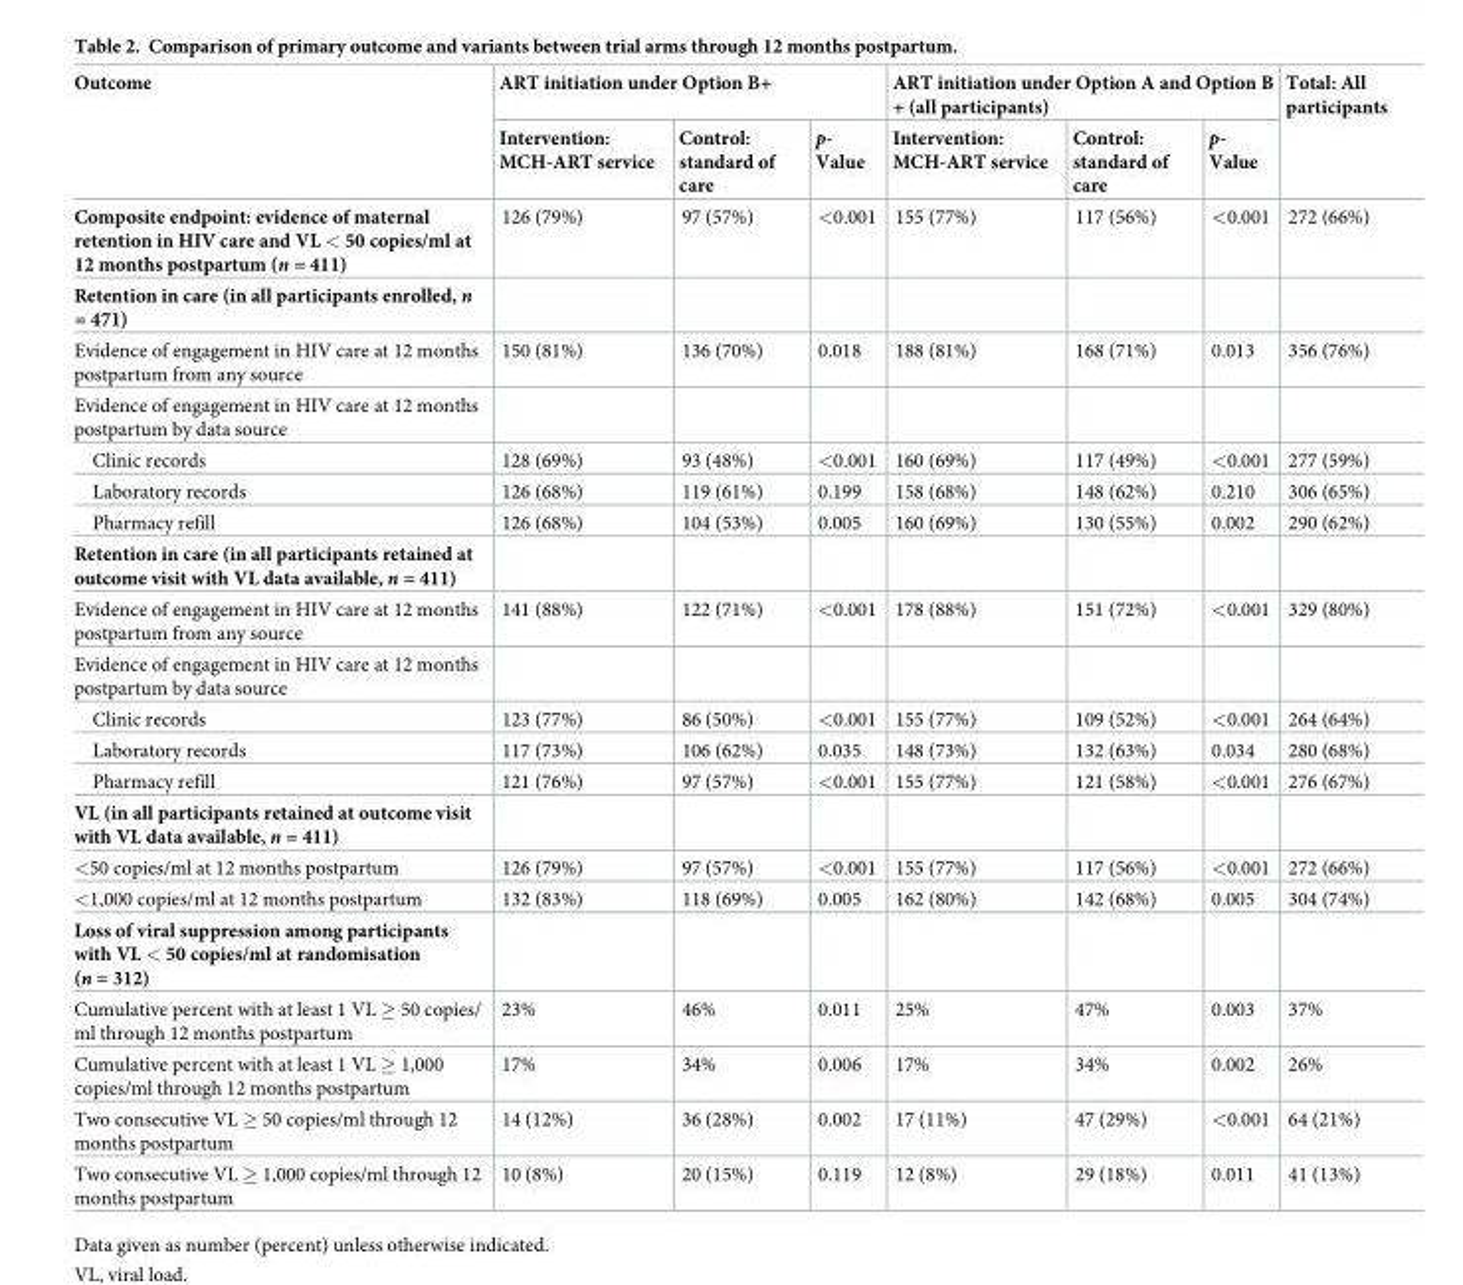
<table><thead><tr><td rowspan="2">Outcome</td><td colspan="3">ART initiation under Option B+</td><td colspan="3">ART initiation under Option A and Option B + (all participants)</td><td rowspan="2">Total: All participants</td></tr><tr><td>Intervention: MCH-ART service</td><td>Control: standard of care</td><td>p- Value</td><td>Intervention: MCH-ART service</td><td>Control: standard of care</td><td>p- Value</td></tr></thead><tbody><tr><td>Composite endpoint: evidence of maternal retention in HIV care and VL &lt; 50 copies/ml at 12 months postpartum (n = 411)</td><td>126 (79%)</td><td>97 (57%)</td><td>&lt;0.001</td><td>155 (77%)</td><td>117 (56%)</td><td>&lt;0.001</td><td>272 (66%)</td></tr><tr><td colspan="8">Retention in care (in all participants enrolled, n = 471)</td></tr><tr><td>Evidence of engagement in HIV care at 12 months postpartum from any source</td><td>150 (81%)</td><td>136 (70%)</td><td>0.018</td><td>188 (81%)</td><td>168 (71%)</td><td>0.013</td><td>356 (76%)</td></tr><tr><td colspan="8">Evidence of engagement in HIV care at 12 months postpartum by data source</td></tr><tr><td>Clinic records</td><td>128 (69%)</td><td>93 (48%)</td><td>&lt;0.001</td><td>160 (69%)</td><td>117 (49%)</td><td>&lt;0.001</td><td>277 (59%)</td></tr><tr><td>Laboratory records</td><td>126 (68%)</td><td>119 (61%)</td><td>0.199</td><td>158 (68%)</td><td>148 (62%)</td><td>0.210</td><td>306 (65%)</td></tr><tr><td>Pharmacy refill</td><td>126 (68%)</td><td>104 (53%)</td><td>0.005</td><td>160 (69%)</td><td>130 (55%)</td><td>0.002</td><td>290 (62%)</td></tr><tr><td colspan="8">Retention in care (in all participants retained at outcome visit with VL data available, n = 411)</td></tr><tr><td>Evidence of engagement in HIV care at 12 months postpartum from any source</td><td>141 (88%)</td><td>122 (71%)</td><td>&lt;0.001</td><td>178 (88%)</td><td>151 (72%)</td><td>&lt;0.001</td><td>329 (80%)</td></tr><tr><td colspan="8">Evidence of engagement in HIV care at 12 months postpartum by data source</td></tr><tr><td>Clinic records</td><td>123 (77%)</td><td>86 (50%)</td><td>&lt;0.001</td><td>155 (77%)</td><td>109 (52%)</td><td>&lt;0.001</td><td>264 (64%)</td></tr><tr><td>Laboratory records</td><td>117 (73%)</td><td>106 (62%)</td><td>0.035</td><td>148 (73%)</td><td>132 (63%)</td><td>0.034</td><td>280 (68%)</td></tr><tr><td>Pharmacy refill</td><td>121 (76%)</td><td>97 (57%)</td><td>&lt;0.001</td><td>155 (77%)</td><td>121 (58%)</td><td>&lt;0.001</td><td>276 (67%)</td></tr><tr><td colspan="8">VL (in all participants retained at outcome visit with VL data available, n = 411)</td></tr><tr><td>&lt;50 copies/ml at 12 months postpartum</td><td>126 (79%)</td><td>97 (57%)</td><td>&lt;0.001</td><td>155 (77%)</td><td>117 (56%)</td><td>&lt;0.001</td><td>272 (66%)</td></tr><tr><td>&lt;1,000 copies/ml at 12 months postpartum</td><td>132 (83%)</td><td>118 (69%)</td><td>0.005</td><td>162 (80%)</td><td>142 (68%)</td><td>0.005</td><td>304 (74%)</td></tr><tr><td colspan="8">Loss of viral suppression among participants with VL &lt; 50 copies/ml at randomisation (n = 312)</td></tr><tr><td>Cumulative percent with at least 1 VL ≥ 50 copies/ ml through 12 months postpartum</td><td>23%</td><td>46%</td><td>0.011</td><td>25%</td><td>47%</td><td>0.003</td><td>37%</td></tr><tr><td>Cumulative percent with at least 1 VL ≥ 1,000 copies/ml through 12 months postpartum</td><td>17%</td><td>34%</td><td>0.006</td><td>17%</td><td>34%</td><td>0.002</td><td>26%</td></tr><tr><td>Two consecutive VL ≥ 50 copies/ml through 12 months postpartum</td><td>14 (12%)</td><td>36 (28%)</td><td>0.002</td><td>17 (11%)</td><td>47 (29%)</td><td>&lt;0.001</td><td>64 (21%)</td></tr><tr><td>Two consecutive VL ≥ 1,000 copies/ml through 12 months postpartum</td><td>10 (8%)</td><td>20 (15%)</td><td>0.119</td><td>12 (8%)</td><td>29 (18%)</td><td>0.011</td><td>41 (13%)</td></tr></tbody></table>